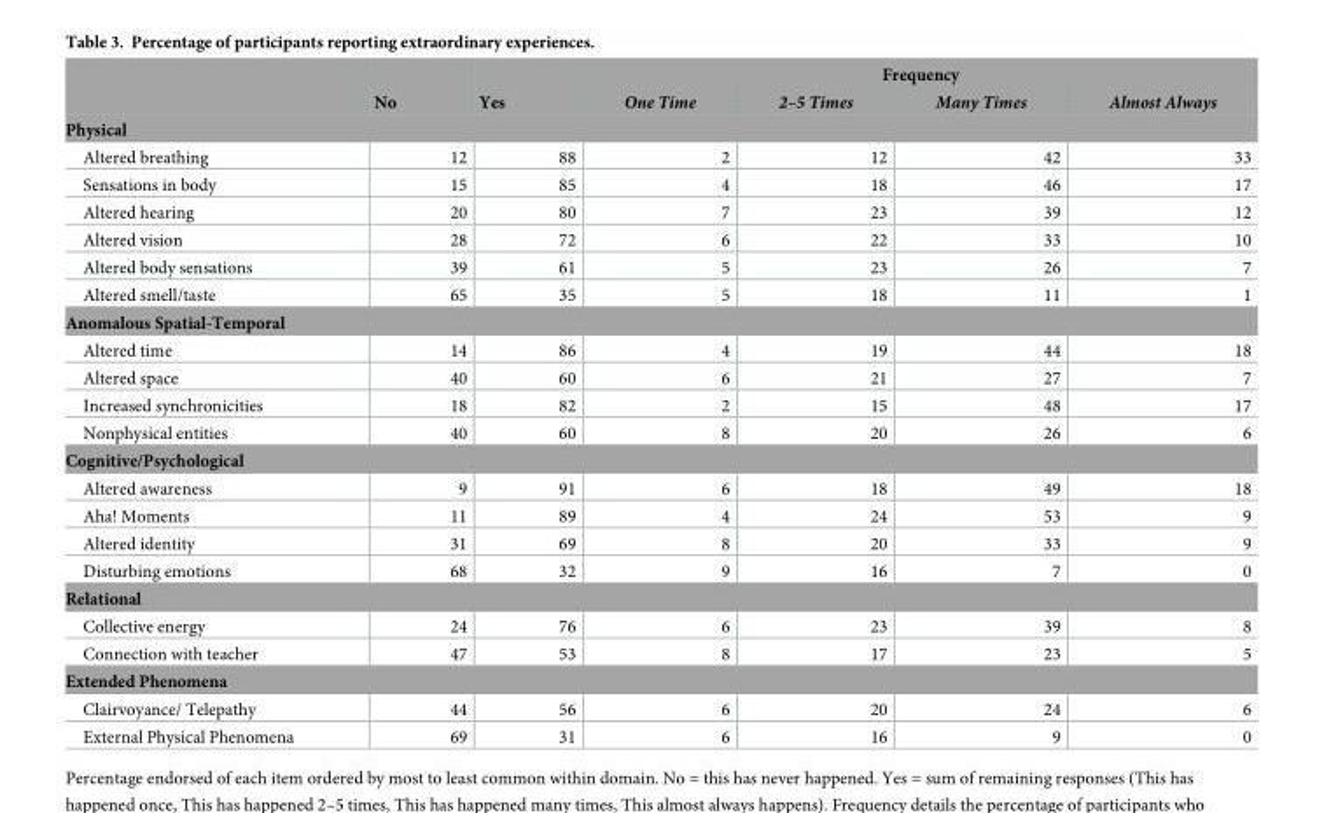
<table><thead><tr><td rowspan="2"></td><td rowspan="2">No</td><td rowspan="2">Yes</td><td colspan="4">Frequency</td></tr><tr><td>One Time</td><td>2–5 Times</td><td>Many Times</td><td>Almost Always</td></tr></thead><tbody><tr><td colspan="7">Physical</td></tr><tr><td>Altered breathing</td><td>12</td><td>88</td><td>2</td><td>12</td><td>42</td><td>33</td></tr><tr><td>Sensations in body</td><td>15</td><td>85</td><td>4</td><td>18</td><td>46</td><td>17</td></tr><tr><td>Altered hearing</td><td>20</td><td>80</td><td>7</td><td>23</td><td>39</td><td>12</td></tr><tr><td>Altered vision</td><td>28</td><td>72</td><td>6</td><td>22</td><td>33</td><td>10</td></tr><tr><td>Altered body sensations</td><td>39</td><td>61</td><td>5</td><td>23</td><td>26</td><td>7</td></tr><tr><td>Altered smell/taste</td><td>65</td><td>35</td><td>5</td><td>18</td><td>11</td><td>1</td></tr><tr><td colspan="7">Anomalous Spatial-Temporal</td></tr><tr><td>Altered time</td><td>14</td><td>86</td><td>4</td><td>19</td><td>44</td><td>18</td></tr><tr><td>Altered space</td><td>40</td><td>60</td><td>6</td><td>21</td><td>27</td><td>7</td></tr><tr><td>Increased synchronicities</td><td>18</td><td>82</td><td>2</td><td>15</td><td>48</td><td>17</td></tr><tr><td>Nonphysical entities</td><td>40</td><td>60</td><td>8</td><td>20</td><td>26</td><td>6</td></tr><tr><td colspan="7">Cognitive/Psychological</td></tr><tr><td>Altered awareness</td><td>9</td><td>91</td><td>6</td><td>18</td><td>49</td><td>18</td></tr><tr><td>Aha! Moments</td><td>11</td><td>89</td><td>4</td><td>24</td><td>53</td><td>9</td></tr><tr><td>Altered identity</td><td>31</td><td>69</td><td>8</td><td>20</td><td>33</td><td>9</td></tr><tr><td>Disturbing emotions</td><td>68</td><td>32</td><td>9</td><td>16</td><td>7</td><td>0</td></tr><tr><td colspan="7">Relational</td></tr><tr><td>Collective energy</td><td>24</td><td>76</td><td>6</td><td>23</td><td>39</td><td>8</td></tr><tr><td>Connection with teacher</td><td>47</td><td>53</td><td>8</td><td>17</td><td>23</td><td>5</td></tr><tr><td colspan="7">Extended Phenomena</td></tr><tr><td>Clairvoyance/ Telepathy</td><td>44</td><td>56</td><td>6</td><td>20</td><td>24</td><td>6</td></tr><tr><td>External Physical Phenomena</td><td>69</td><td>31</td><td>6</td><td>16</td><td>9</td><td>0</td></tr></tbody></table>